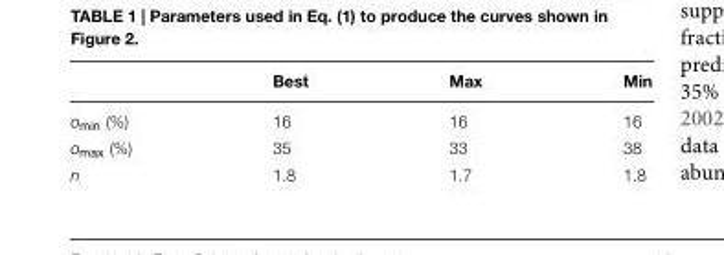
<table><thead><tr><td></td><td>Best</td><td>Max</td><td>Min</td></tr></thead><tbody><tr><td>o<sub>min</sub> (%)</td><td>16</td><td>16</td><td>16</td></tr><tr><td>o<sub>max</sub> (%)</td><td>35</td><td>33</td><td>38</td></tr><tr><td>n</td><td>1.8</td><td>1.7</td><td>1.8</td></tr></tbody></table>